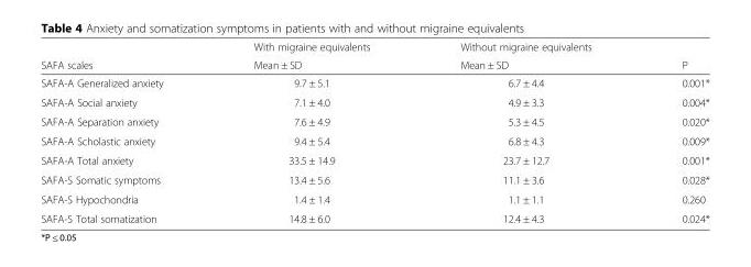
<table><thead><tr><td rowspan="2">SAFA scales</td><td rowspan="2">With migraine equivalents Mean ± SD</td><td rowspan="2">Without migraine equivalents Mean ± SD</td><td rowspan="2">P</td></tr><tr></tr></thead><tbody><tr><td>SAFA-A Generalized anxiety</td><td>9.7 ± 5.1</td><td>6.7 ± 4.4</td><td>0.001*</td></tr><tr><td>SAFA-A Social anxiety</td><td>7.1 ± 4.0</td><td>4.9 ± 3.3</td><td>0.004*</td></tr><tr><td>SAFA-A Separation anxiety</td><td>7.6 ± 4.9</td><td>5.3 ± 4.5</td><td>0.020*</td></tr><tr><td>SAFA-A Scholastic anxiety</td><td>9.4 ± 5.4</td><td>6.8 ± 4.3</td><td>0.009*</td></tr><tr><td>SAFA-A Total anxiety</td><td>33.5 ± 14.9</td><td>23.7 ± 12.7</td><td>0.001*</td></tr><tr><td>SAFA-S Somatic symptoms</td><td>13.4 ± 5.6</td><td>11.1 ± 3.6</td><td>0.028*</td></tr><tr><td>SAFA-S Hypochondria</td><td>1.4 ± 1.4</td><td>1.1 ± 1.1</td><td>0.260</td></tr><tr><td>SAFA-S Total somatization</td><td>14.8 ± 6.0</td><td>12.4 ± 4.3</td><td>0.024*</td></tr></tbody></table>